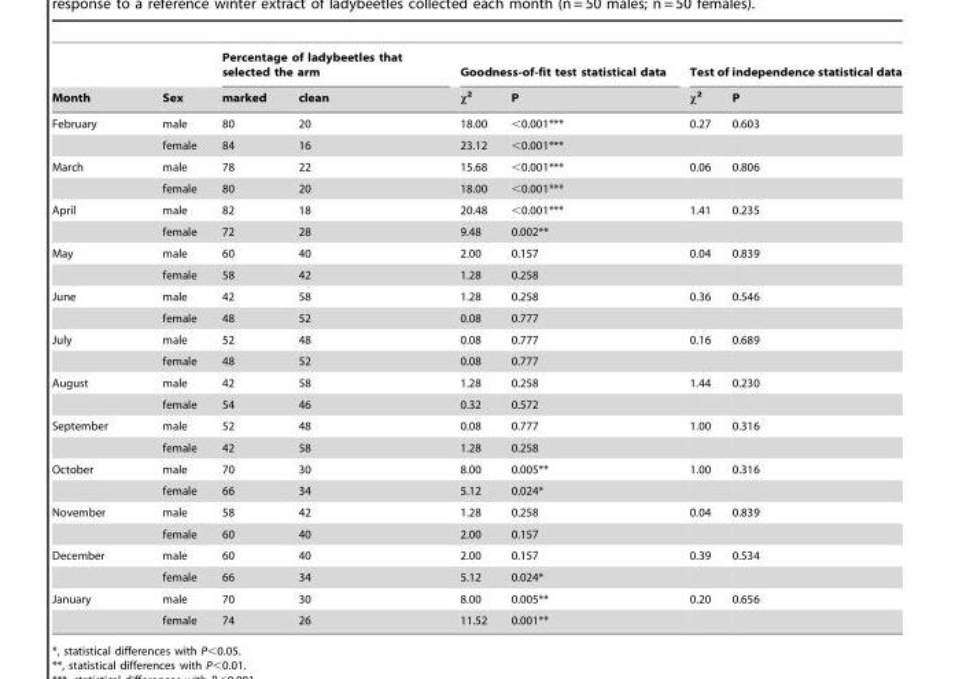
<table><thead><tr><td rowspan="2">Month</td><td rowspan="2">Sex</td><td colspan="2">Percentage of ladybeetles that selected the arm</td><td colspan="2">Goodness-of-fit test statistical data</td><td colspan="2">Test of independence statistical data</td></tr><tr><td>marked</td><td>clean</td><td>χ<sup>2</sup></td><td>P</td><td>χ<sup>2</sup></td><td>P</td></tr></thead><tbody><tr><td rowspan="2">February</td><td>male</td><td>80</td><td>20</td><td>18.00</td><td>&lt;0.001***</td><td>0.27</td><td>0.603</td></tr><tr><td>female</td><td>84</td><td>16</td><td>23.12</td><td>&lt;0.001***</td><td></td><td></td></tr><tr><td rowspan="2">March</td><td>male</td><td>78</td><td>22</td><td>15.68</td><td>&lt;0.001***</td><td>0.06</td><td>0.806</td></tr><tr><td>female</td><td>80</td><td>20</td><td>18.00</td><td>&lt;0.001***</td><td></td><td></td></tr><tr><td rowspan="2">April</td><td>male</td><td>82</td><td>18</td><td>20.48</td><td>&lt;0.001***</td><td>1.41</td><td>0.235</td></tr><tr><td>female</td><td>72</td><td>28</td><td>9.48</td><td>0.002**</td><td></td><td></td></tr><tr><td rowspan="2">May</td><td>male</td><td>60</td><td>40</td><td>2.00</td><td>0.157</td><td>0.04</td><td>0.839</td></tr><tr><td>female</td><td>58</td><td>42</td><td>1.28</td><td>0.258</td><td></td><td></td></tr><tr><td rowspan="2">June</td><td>male</td><td>42</td><td>58</td><td>1.28</td><td>0.258</td><td>0.36</td><td>0.546</td></tr><tr><td>female</td><td>48</td><td>52</td><td>0.08</td><td>0.777</td><td></td><td></td></tr><tr><td rowspan="2">July</td><td>male</td><td>52</td><td>48</td><td>0.08</td><td>0.777</td><td>0.16</td><td>0.689</td></tr><tr><td>female</td><td>48</td><td>52</td><td>0.08</td><td>0.777</td><td></td><td></td></tr><tr><td rowspan="2">August</td><td>male</td><td>42</td><td>58</td><td>1.28</td><td>0.258</td><td>1.44</td><td>0.230</td></tr><tr><td>female</td><td>54</td><td>46</td><td>0.32</td><td>0.572</td><td></td><td></td></tr><tr><td rowspan="2">September</td><td>male</td><td>52</td><td>48</td><td>0.08</td><td>0.777</td><td>1.00</td><td>0.316</td></tr><tr><td>female</td><td>42</td><td>58</td><td>1.28</td><td>0.258</td><td></td><td></td></tr><tr><td rowspan="2">October</td><td>male</td><td>70</td><td>30</td><td>8.00</td><td>0.005**</td><td>1.00</td><td>0.316</td></tr><tr><td>female</td><td>66</td><td>34</td><td>5.12</td><td>0.024*</td><td></td><td></td></tr><tr><td rowspan="2">November</td><td>male</td><td>58</td><td>42</td><td>1.28</td><td>0.258</td><td>0.04</td><td>0.839</td></tr><tr><td>female</td><td>60</td><td>40</td><td>2.00</td><td>0.157</td><td></td><td></td></tr><tr><td rowspan="2">December</td><td>male</td><td>60</td><td>40</td><td>2.00</td><td>0.157</td><td>0.39</td><td>0.534</td></tr><tr><td>female</td><td>66</td><td>34</td><td>5.12</td><td>0.024*</td><td></td><td></td></tr><tr><td rowspan="2">January</td><td>male</td><td>70</td><td>30</td><td>8.00</td><td>0.005**</td><td>0.20</td><td>0.656</td></tr><tr><td>female</td><td>74</td><td>26</td><td>11.52</td><td>0.001**</td><td></td><td></td></tr></tbody></table>